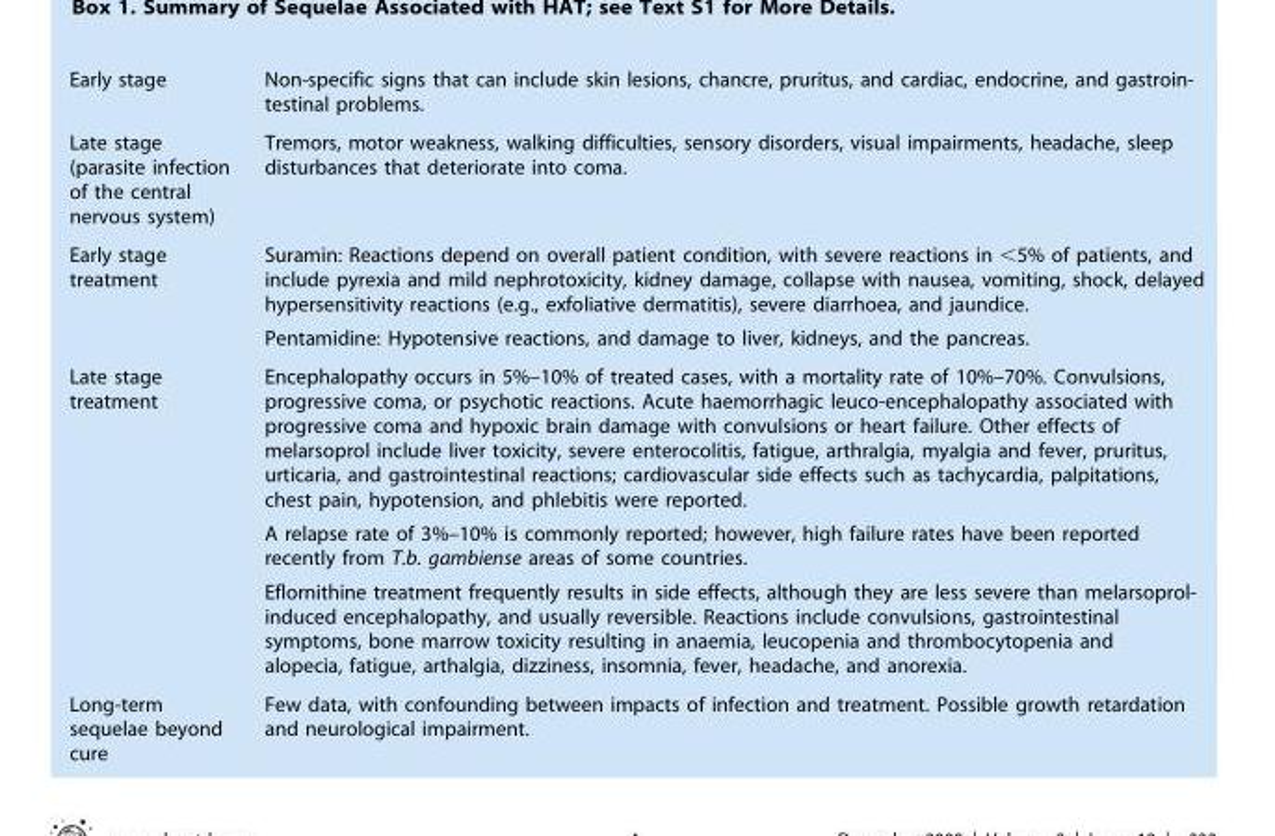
<table><tbody><tr><td>Early stage</td><td>Non-specific signs that can include skin lesions, chancre, pruritus, and cardiac, endocrine, and gastroin- testinal problems.</td></tr><tr><td>Late stage (parasite infection of the central nervous system)</td><td>Tremors, motor weakness, walking difficulties, sensory disorders, visual impairments, headache, sleep disturbances that deteriorate into coma.</td></tr><tr><td rowspan="2">Early stage treatment</td><td>Suramin: Reactions depend on overall patient condition, with severe reactions in &lt;5% of patients, and include pyrexia and mild nephrotoxicity, kidney damage, collapse with nausea, vomiting, shock, delayed hypersensitivity reactions (e.g., exfoliative dermatitis), severe diarrhoea, and jaundice.</td></tr><tr><td>Pentamidine: Hypotensive reactions, and damage to liver, kidneys, and the pancreas.</td></tr><tr><td rowspan="3">Late stage treatment</td><td>Encephalopathy occurs in 5%–10% of treated cases, with a mortality rate of 10%–70%. Convulsions, progressive coma, or psychotic reactions. Acute haemorrhagic leuco-encephalopathy associated with progressive coma and hypoxic brain damage with convulsions or heart failure. Other effects of melarsoprol include liver toxicity, severe enterocolitis, fatigue, arthralgia, myalgia and fever, pruritus, urticaria, and gastrointestinal reactions; cardiovascular side effects such as tachycardia, palpitations, chest pain, hypotension, and phlebitis were reported.</td></tr><tr><td>A relapse rate of 3%–10% is commonly reported; however, high failure rates have been reported recently from T.b. gambiense areas of some countries.</td></tr><tr><td>Eflornithine treatment frequently results in side effects, although they are less severe than melarsoprol- induced encephalopathy, and usually reversible. Reactions include convulsions, gastrointestinal symptoms, bone marrow toxicity resulting in anaemia, leucopenia and thrombocytopenia and alopecia, fatigue, arthalgia, dizziness, insomnia, fever, headache, and anorexia.</td></tr><tr><td>Long-term sequelae beyond cure</td><td>Few data, with confounding between impacts of infection and treatment. Possible growth retardation and neurological impairment.</td></tr></tbody></table>